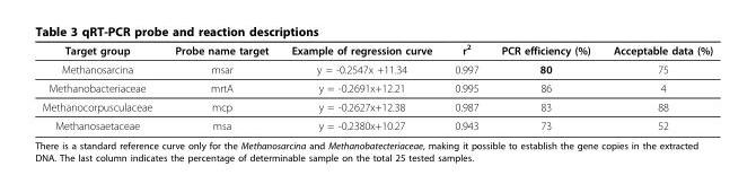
<table><thead><tr><td>Target group</td><td>Probe name target</td><td>Example of regression curve</td><td>r<sup>2</sup></td><td>PCR efficiency (%)</td><td>Acceptable data (%)</td></tr></thead><tbody><tr><td>Methanosarcina</td><td>msar</td><td>y = -0.2547x +11.34</td><td>0.997</td><td>80</td><td>75</td></tr><tr><td>Methanobacteriaceae</td><td>mrtA</td><td>y = -0.2691x+12.21</td><td>0.995</td><td>86</td><td>4</td></tr><tr><td>Methanocorpusculaceae</td><td>mcp</td><td>y = -0.2627x+12.38</td><td>0.987</td><td>83</td><td>88</td></tr><tr><td>Methanosaetaceae</td><td>msa</td><td>y = -0.2380x+10.27</td><td>0.943</td><td>73</td><td>52</td></tr></tbody></table>